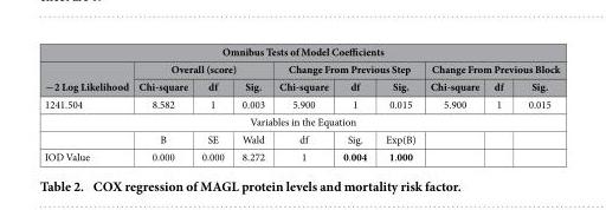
<table><thead><tr><td colspan="10">Omnibus Tests of Model Coefficients</td></tr><tr><td rowspan="2">−2 Log Likelihood</td><td colspan="3">Overall (score)</td><td colspan="3">Change From Previous Step</td><td colspan="3">Change From Previous Block</td></tr><tr><td>Chi-square</td><td>df</td><td>Sig.</td><td>Chi-square</td><td>df</td><td>Sig.</td><td>Chi-square</td><td>df</td><td>Sig.</td></tr></thead><tbody><tr><td>1241.504</td><td>8.582</td><td>1</td><td>0.003</td><td>5.900</td><td>1</td><td>0.015</td><td>5.900</td><td>1</td><td>0.015</td></tr><tr><td colspan="10">Variables in the Equation</td></tr><tr><td></td><td>B</td><td>SE</td><td>Wald</td><td>df</td><td>Sig.</td><td>Exp(B)</td><td></td><td></td><td></td></tr><tr><td>IOD Value</td><td>0.000</td><td>0.000</td><td>8.272</td><td>1</td><td>0.004</td><td>1.000</td><td></td><td></td><td></td></tr></tbody></table>